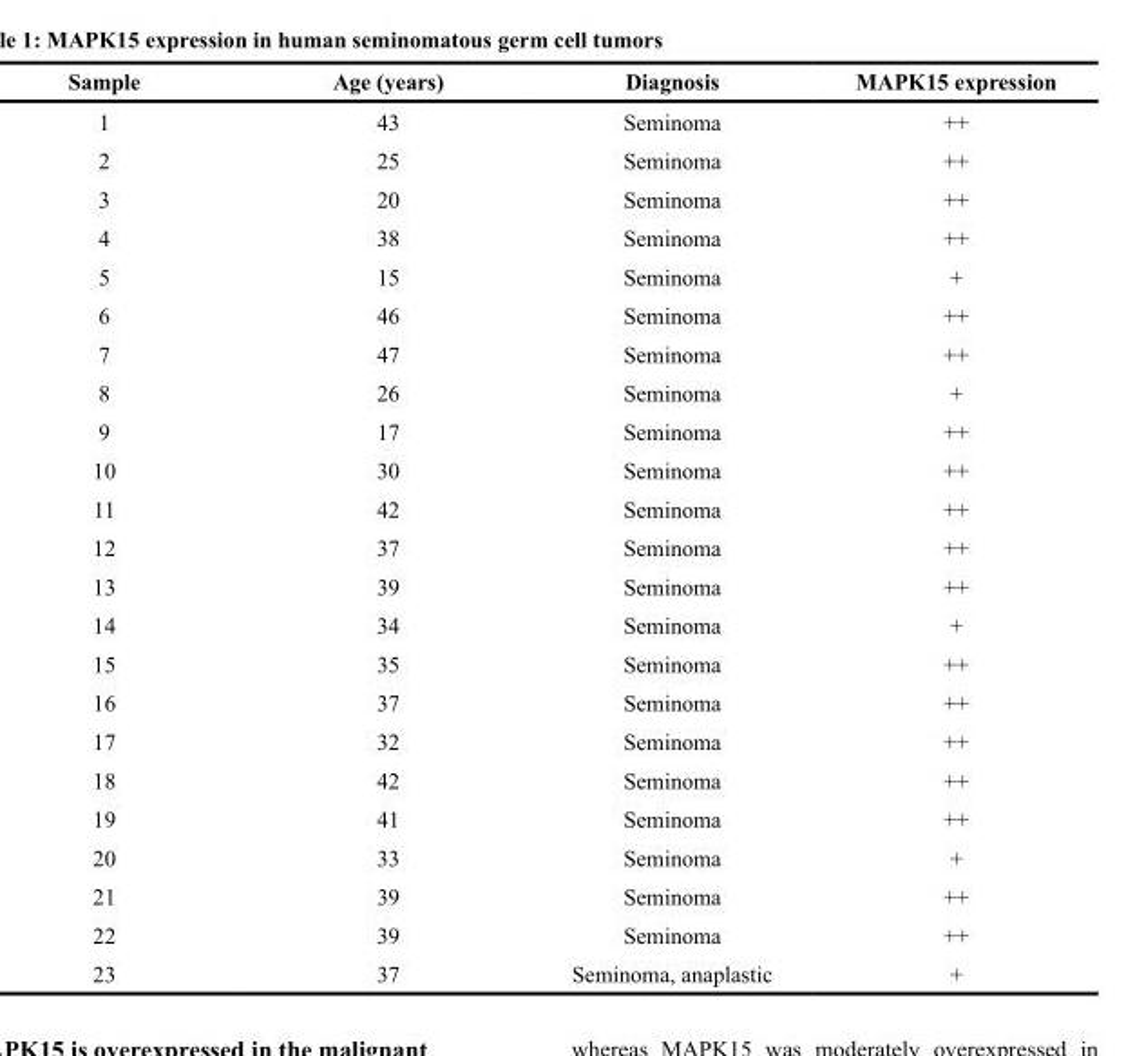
<table><thead><tr><td>Sample</td><td>Age (years)</td><td>Diagnosis</td><td>MAPK15 expression</td></tr></thead><tbody><tr><td>1</td><td>43</td><td>Seminoma</td><td>++</td></tr><tr><td>2</td><td>25</td><td>Seminoma</td><td>++</td></tr><tr><td>3</td><td>20</td><td>Seminoma</td><td>++</td></tr><tr><td>4</td><td>38</td><td>Seminoma</td><td>++</td></tr><tr><td>5</td><td>15</td><td>Seminoma</td><td>+</td></tr><tr><td>6</td><td>46</td><td>Seminoma</td><td>++</td></tr><tr><td>7</td><td>47</td><td>Seminoma</td><td>++</td></tr><tr><td>8</td><td>26</td><td>Seminoma</td><td>+</td></tr><tr><td>9</td><td>17</td><td>Seminoma</td><td>++</td></tr><tr><td>10</td><td>30</td><td>Seminoma</td><td>++</td></tr><tr><td>11</td><td>42</td><td>Seminoma</td><td>++</td></tr><tr><td>12</td><td>37</td><td>Seminoma</td><td>++</td></tr><tr><td>13</td><td>39</td><td>Seminoma</td><td>++</td></tr><tr><td>14</td><td>34</td><td>Seminoma</td><td>+</td></tr><tr><td>15</td><td>35</td><td>Seminoma</td><td>++</td></tr><tr><td>16</td><td>37</td><td>Seminoma</td><td>++</td></tr><tr><td>17</td><td>32</td><td>Seminoma</td><td>++</td></tr><tr><td>18</td><td>42</td><td>Seminoma</td><td>++</td></tr><tr><td>19</td><td>41</td><td>Seminoma</td><td>++</td></tr><tr><td>20</td><td>33</td><td>Seminoma</td><td>+</td></tr><tr><td>21</td><td>39</td><td>Seminoma</td><td>++</td></tr><tr><td>22</td><td>39</td><td>Seminoma</td><td>++</td></tr><tr><td>23</td><td>37</td><td>Seminoma, anaplastic</td><td>+</td></tr></tbody></table>